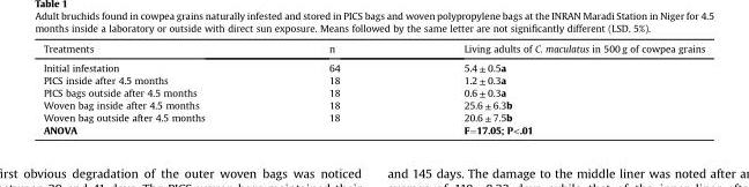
<table><thead><tr><td>Treatments</td><td>n</td><td>Living adults of C. maculatus in 500 g of cowpea grains</td></tr></thead><tbody><tr><td>Initial infestation</td><td>64</td><td>5.4 ± 0.5a</td></tr><tr><td>PICS inside after 4.5 months</td><td>18</td><td>1.2 ± 0.3a</td></tr><tr><td>PICS bags outside after 4.5 months</td><td>18</td><td>0.6 ± 0.3a</td></tr><tr><td>Woven bag inside after 4.5 months</td><td>18</td><td>25.6 ± 6.3b</td></tr><tr><td>Woven bag outside after 4.5 months</td><td>18</td><td>20.6 ± 7.5b</td></tr><tr><td>ANOVA</td><td></td><td>F=17.05; P&lt;.01</td></tr></tbody></table>